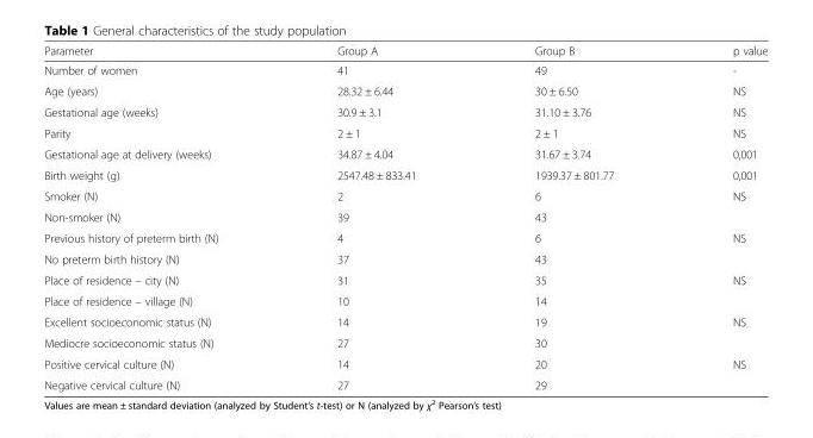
<table><thead><tr><td>Parameter</td><td>Group A</td><td>Group B</td><td>p value</td></tr></thead><tbody><tr><td>Number of women</td><td>41</td><td>49</td><td>-</td></tr><tr><td>Age (years)</td><td>28.32 ± 6.44</td><td>30 ± 6.50</td><td>NS</td></tr><tr><td>Gestational age (weeks)</td><td>30.9 ± 3.1</td><td>31.10 ± 3.76</td><td>NS</td></tr><tr><td>Parity</td><td>2 ± 1</td><td>2 ± 1</td><td>NS</td></tr><tr><td>Gestational age at delivery (weeks)</td><td>34.87 ± 4.04</td><td>31.67 ± 3.74</td><td>0,001</td></tr><tr><td>Birth weight (g)</td><td>2547.48 ± 833.41</td><td>1939.37 ± 801.77</td><td>0,001</td></tr><tr><td>Smoker (N)</td><td>2</td><td>6</td><td rowspan="2">NS</td></tr><tr><td>Non-smoker (N)</td><td>39</td><td>43</td></tr><tr><td>Previous history of preterm birth (N)</td><td>4</td><td>6</td><td rowspan="2">NS</td></tr><tr><td>No preterm birth history (N)</td><td>37</td><td>43</td></tr><tr><td>Place of residence – city (N)</td><td>31</td><td>35</td><td rowspan="2">NS</td></tr><tr><td>Place of residence – village (N)</td><td>10</td><td>14</td></tr><tr><td>Excellent socioeconomic status (N)</td><td>14</td><td>19</td><td rowspan="2">NS</td></tr><tr><td>Mediocre socioeconomic status (N)</td><td>27</td><td>30</td></tr><tr><td>Positive cervical culture (N)</td><td>14</td><td>20</td><td rowspan="2">NS</td></tr><tr><td>Negative cervical culture (N)</td><td>27</td><td>29</td></tr></tbody></table>